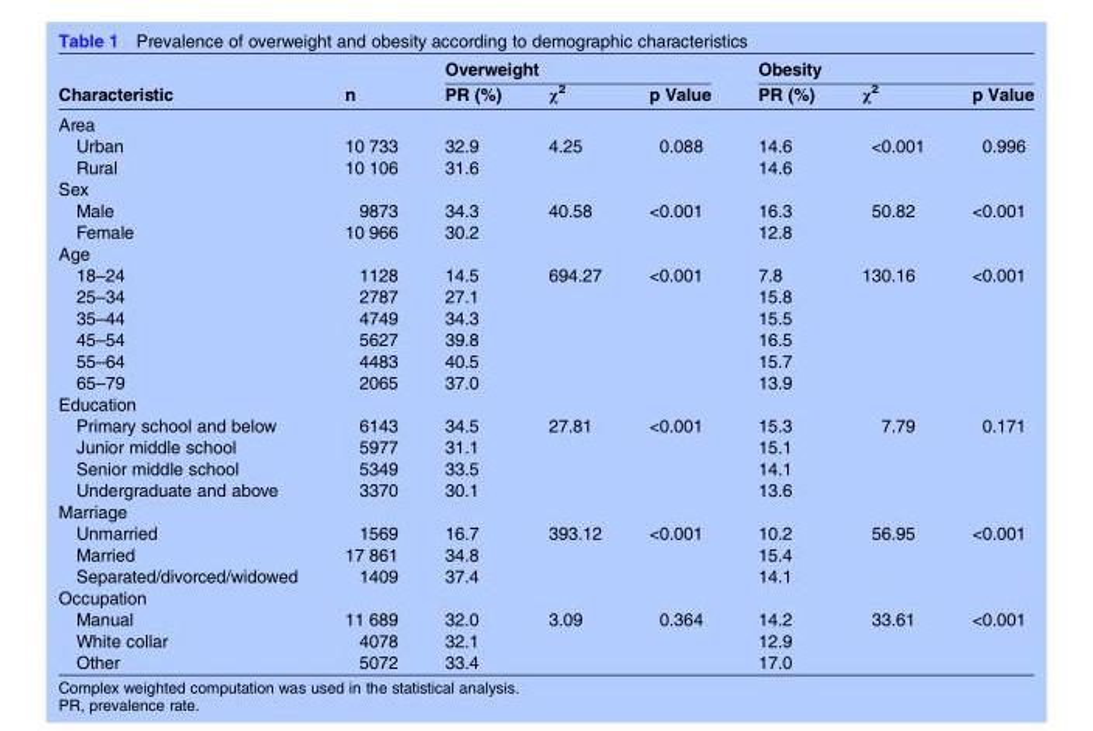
<table><thead><tr><td rowspan="2">Characteristic</td><td rowspan="2">n</td><td colspan="3">Overweight</td><td colspan="3">Obesity</td></tr><tr><td>PR (%)</td><td>χ<sup>2</sup></td><td>p Value</td><td>PR (%)</td><td>χ<sup>2</sup></td><td>p Value</td></tr></thead><tbody><tr><td colspan="8">Area</td></tr><tr><td>Urban</td><td>10 733</td><td>32.9</td><td>4.25</td><td rowspan="2">0.088</td><td>14.6</td><td>&lt;0.001</td><td rowspan="2">0.996</td></tr><tr><td>Rural</td><td>10 106</td><td>31.6</td><td></td><td>14.6</td><td></td></tr><tr><td colspan="8">Sex</td></tr><tr><td>Male</td><td>9873</td><td>34.3</td><td>40.58</td><td rowspan="2">&lt;0.001</td><td>16.3</td><td>50.82</td><td rowspan="2">&lt;0.001</td></tr><tr><td>Female</td><td>10 966</td><td>30.2</td><td></td><td>12.8</td><td></td></tr><tr><td colspan="8">Age</td></tr><tr><td>18–24</td><td>1128</td><td>14.5</td><td>694.27</td><td rowspan="6">&lt;0.001</td><td>7.8</td><td>130.16</td><td rowspan="6">&lt;0.001</td></tr><tr><td>25–34</td><td>2787</td><td>27.1</td><td></td><td>15.8</td><td></td></tr><tr><td>35–44</td><td>4749</td><td>34.3</td><td></td><td>15.5</td><td></td></tr><tr><td>45–54</td><td>5627</td><td>39.8</td><td></td><td>16.5</td><td></td></tr><tr><td>55–64</td><td>4483</td><td>40.5</td><td></td><td>15.7</td><td></td></tr><tr><td>65–79</td><td>2065</td><td>37.0</td><td></td><td>13.9</td><td></td></tr><tr><td colspan="8">Education</td></tr><tr><td>Primary school and below</td><td>6143</td><td>34.5</td><td>27.81</td><td rowspan="4">&lt;0.001</td><td>15.3</td><td>7.79</td><td rowspan="4">0.171</td></tr><tr><td>Junior middle school</td><td>5977</td><td>31.1</td><td></td><td>15.1</td><td></td></tr><tr><td>Senior middle school</td><td>5349</td><td>33.5</td><td></td><td>14.1</td><td></td></tr><tr><td>Undergraduate and above</td><td>3370</td><td>30.1</td><td></td><td>13.6</td><td></td></tr><tr><td colspan="8">Marriage</td></tr><tr><td>Unmarried</td><td>1569</td><td>16.7</td><td>393.12</td><td rowspan="3">&lt;0.001</td><td>10.2</td><td>56.95</td><td rowspan="3">&lt;0.001</td></tr><tr><td>Married</td><td>17 861</td><td>34.8</td><td></td><td>15.4</td><td></td></tr><tr><td>Separated/divorced/widowed</td><td>1409</td><td>37.4</td><td></td><td>14.1</td><td></td></tr><tr><td colspan="8">Occupation</td></tr><tr><td>Manual</td><td>11 689</td><td>32.0</td><td>3.09</td><td rowspan="3">0.364</td><td>14.2</td><td>33.61</td><td rowspan="3">&lt;0.001</td></tr><tr><td>White collar</td><td>4078</td><td>32.1</td><td></td><td>12.9</td><td></td></tr><tr><td>Other</td><td>5072</td><td>33.4</td><td></td><td>17.0</td><td></td></tr></tbody></table>